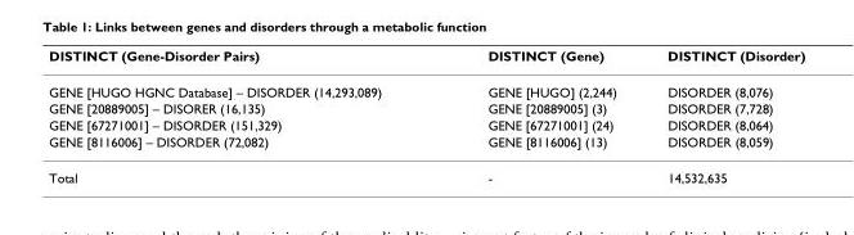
<table><thead><tr><td>DISTINCT (Gene-Disorder Pairs)</td><td>DISTINCT (Gene)</td><td>DISTINCT (Disorder)</td></tr></thead><tbody><tr><td>GENE [HUGO HGNC Database] – DISORDER (14,293,089)</td><td>GENE [HUGO] (2,244)</td><td>DISORDER (8,076)</td></tr><tr><td>GENE [20889005] – DISORER (16,135)</td><td>GENE [20889005] (3)</td><td>DISORDER (7,728)</td></tr><tr><td>GENE [67271001] – DISORDER (151,329)</td><td>GENE [67271001] (24)</td><td>DISORDER (8,064)</td></tr><tr><td>GENE [8116006] – DISORDER (72,082)</td><td>GENE [8116006] (13)</td><td>DISORDER (8,059)</td></tr><tr><td>Total</td><td>-</td><td>14,532,635</td></tr></tbody></table>